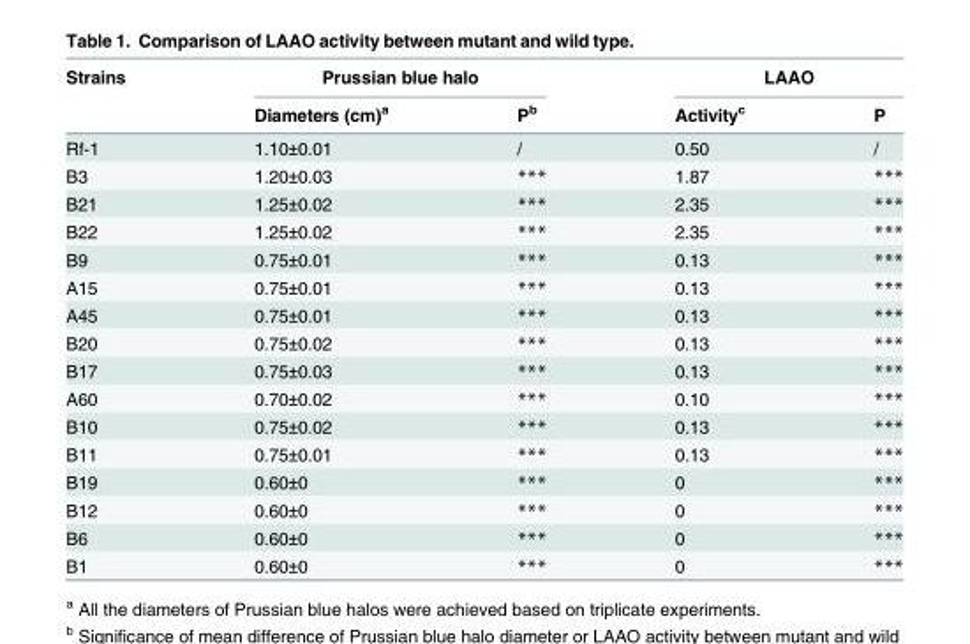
<table><thead><tr><td rowspan="2">Strains</td><td colspan="2">Prussian blue halo</td><td colspan="2">LAAO</td></tr><tr><td>Diameters (cm)<sup>a</sup></td><td>P<sup>b</sup></td><td>Activity<sup>c</sup></td><td>P</td></tr></thead><tbody><tr><td>Rf-1</td><td>1.10±0.01</td><td>/</td><td>0.50</td><td>/</td></tr><tr><td>B3</td><td>1.20±0.03</td><td>***</td><td>1.87</td><td>***</td></tr><tr><td>B21</td><td>1.25±0.02</td><td>***</td><td>2.35</td><td>***</td></tr><tr><td>B22</td><td>1.25±0.02</td><td>***</td><td>2.35</td><td>***</td></tr><tr><td>B9</td><td>0.75±0.01</td><td>***</td><td>0.13</td><td>***</td></tr><tr><td>A15</td><td>0.75±0.01</td><td>***</td><td>0.13</td><td>***</td></tr><tr><td>A45</td><td>0.75±0.01</td><td>***</td><td>0.13</td><td>***</td></tr><tr><td>B20</td><td>0.75±0.02</td><td>***</td><td>0.13</td><td>***</td></tr><tr><td>B17</td><td>0.75±0.03</td><td>***</td><td>0.13</td><td>***</td></tr><tr><td>A60</td><td>0.70±0.02</td><td>***</td><td>0.10</td><td>***</td></tr><tr><td>B10</td><td>0.75±0.02</td><td>***</td><td>0.13</td><td>***</td></tr><tr><td>B11</td><td>0.75±0.01</td><td>***</td><td>0.13</td><td>***</td></tr><tr><td>B19</td><td>0.60±0</td><td>***</td><td>0</td><td>***</td></tr><tr><td>B12</td><td>0.60±0</td><td>***</td><td>0</td><td>***</td></tr><tr><td>B6</td><td>0.60±0</td><td>***</td><td>0</td><td>***</td></tr><tr><td>B1</td><td>0.60±0</td><td>***</td><td>0</td><td>***</td></tr></tbody></table>